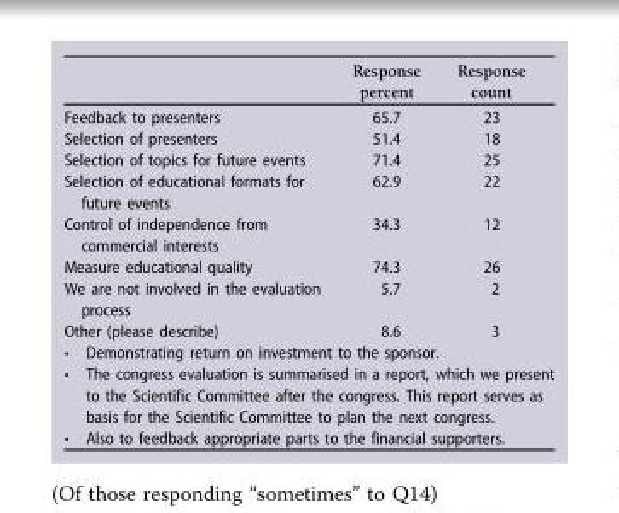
<table><thead><tr><td></td><td>Response percent</td><td>Response count</td></tr></thead><tbody><tr><td>Feedback to presenters</td><td>65.7</td><td>23</td></tr><tr><td>Selection of presenters</td><td>51.4</td><td>18</td></tr><tr><td>Selection of topics for future events</td><td>71.4</td><td>25</td></tr><tr><td>Selection of educational formats for future events</td><td>62.9</td><td>22</td></tr><tr><td>Control of independence from commercial interests</td><td>34.3</td><td>12</td></tr><tr><td>Measure educational quality</td><td>74.3</td><td>26</td></tr><tr><td>We are not involved in the evaluation process</td><td>5.7</td><td>2</td></tr><tr><td>Other (please describe)</td><td>8.6</td><td>3</td></tr><tr><td colspan="3">• Demonstrating return on investment to the sponsor. • The congress evaluation is summarised in a report, which we present to the Scientific Committee after the congress. This report serves as basis for the Scientific Committee to plan the next congress. • Also to feedback appropriate parts to the financial supporters.</td></tr></tbody></table>